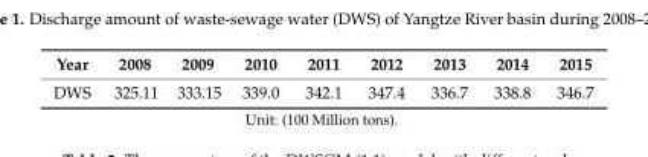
<table><thead><tr><td>Year</td><td>2008</td><td>2009</td><td>2010</td><td>2011</td><td>2012</td><td>2013</td><td>2014</td><td>2015</td></tr></thead><tbody><tr><td>DWS</td><td>325.11</td><td>333.15</td><td>339.0</td><td>342.1</td><td>347.4</td><td>336.7</td><td>338.8</td><td>346.7</td></tr></tbody></table>